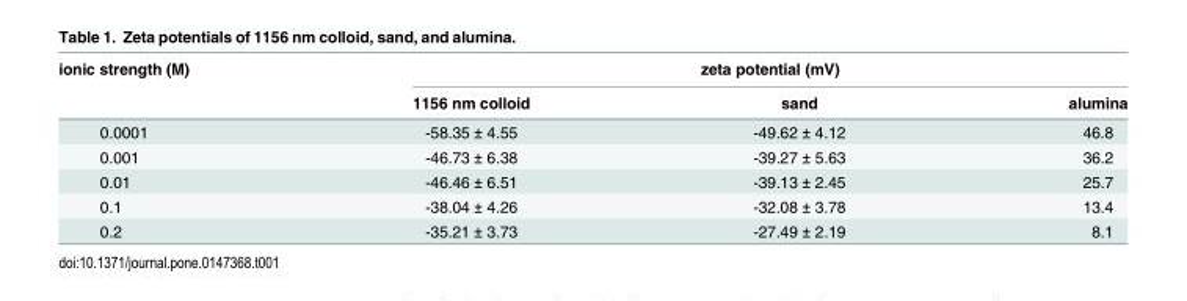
<table><thead><tr><td rowspan="2">ionic strength (M)</td><td colspan="3">zeta potential (mV)</td></tr><tr><td>1156 nm colloid</td><td>sand</td><td>alumina</td></tr></thead><tbody><tr><td>0.0001</td><td>-58.35 ± 4.55</td><td>-49.62 ± 4.12</td><td>46.8</td></tr><tr><td>0.001</td><td>-46.73 ± 6.38</td><td>-39.27 ± 5.63</td><td>36.2</td></tr><tr><td>0.01</td><td>-46.46 ± 6.51</td><td>-39.13 ± 2.45</td><td>25.7</td></tr><tr><td>0.1</td><td>-38.04 ± 4.26</td><td>-32.08 ± 3.78</td><td>13.4</td></tr><tr><td>0.2</td><td>-35.21 ± 3.73</td><td>-27.49 ± 2.19</td><td>8.1</td></tr></tbody></table>